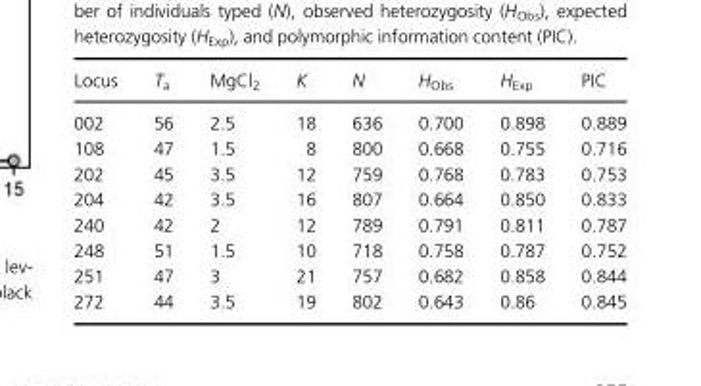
<table><thead><tr><td>Locus</td><td>T<sub>a</sub></td><td>MgCl<sub>2</sub></td><td>K</td><td>N</td><td>H<sub>Obs</sub></td><td>H<sub>Exp</sub></td><td>PIC</td></tr></thead><tbody><tr><td>002</td><td>56</td><td>2.5</td><td>18</td><td>636</td><td>0.700</td><td>0.898</td><td>0.889</td></tr><tr><td>108</td><td>47</td><td>1.5</td><td>8</td><td>800</td><td>0.668</td><td>0.755</td><td>0.716</td></tr><tr><td>202</td><td>45</td><td>3.5</td><td>12</td><td>759</td><td>0.768</td><td>0.783</td><td>0.753</td></tr><tr><td>204</td><td>42</td><td>3.5</td><td>16</td><td>807</td><td>0.664</td><td>0.850</td><td>0.833</td></tr><tr><td>240</td><td>42</td><td>2</td><td>12</td><td>789</td><td>0.791</td><td>0.811</td><td>0.787</td></tr><tr><td>248</td><td>51</td><td>1.5</td><td>10</td><td>718</td><td>0.758</td><td>0.787</td><td>0.752</td></tr><tr><td>251</td><td>47</td><td>3</td><td>21</td><td>757</td><td>0.682</td><td>0.858</td><td>0.844</td></tr><tr><td>272</td><td>44</td><td>3.5</td><td>19</td><td>802</td><td>0.643</td><td>0.86</td><td>0.845</td></tr></tbody></table>